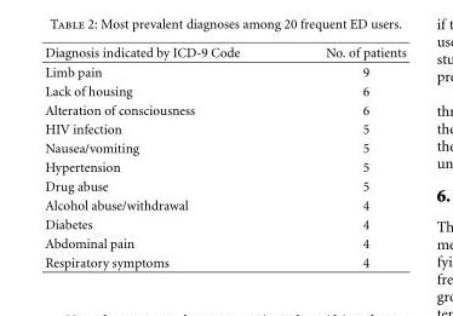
<table><thead><tr><td>Diagnosis indicated by ICD-9 Code</td><td>No. of patients</td></tr></thead><tbody><tr><td>Limb pain</td><td>9</td></tr><tr><td>Lack of housing</td><td>6</td></tr><tr><td>Alteration of consciousness</td><td>6</td></tr><tr><td>HIV infection</td><td>5</td></tr><tr><td>Nausea/vomiting</td><td>5</td></tr><tr><td>Hypertension</td><td>5</td></tr><tr><td>Drug abuse</td><td>5</td></tr><tr><td>Alcohol abuse/withdrawal</td><td>4</td></tr><tr><td>Diabetes</td><td>4</td></tr><tr><td>Abdominal pain</td><td>4</td></tr><tr><td>Respiratory symptoms</td><td>4</td></tr></tbody></table>